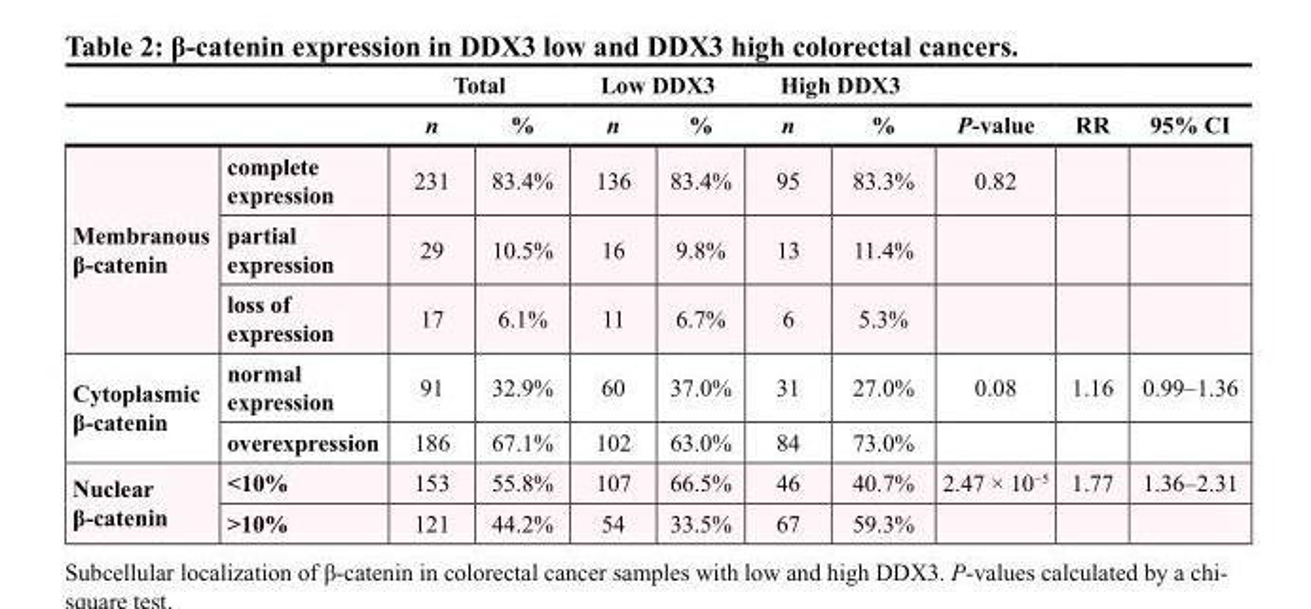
<table><thead><tr><td rowspan="2"></td><td rowspan="2"></td><td colspan="2">Total</td><td colspan="2">Low DDX3</td><td colspan="2">High DDX3</td><td rowspan="2">P-value</td><td rowspan="2">RR</td><td rowspan="2">95% CI</td></tr><tr><td>n</td><td>%</td><td>n</td><td>%</td><td>n</td><td>%</td></tr></thead><tbody><tr><td rowspan="3">Membranous β-catenin</td><td>complete expression</td><td>231</td><td>83.4%</td><td>136</td><td>83.4%</td><td>95</td><td>83.3%</td><td>0.82</td><td></td><td></td></tr><tr><td>partial expression</td><td>29</td><td>10.5%</td><td>16</td><td>9.8%</td><td>13</td><td>11.4%</td><td></td><td></td><td></td></tr><tr><td>loss of expression</td><td>17</td><td>6.1%</td><td>11</td><td>6.7%</td><td>6</td><td>5.3%</td><td></td><td></td><td></td></tr><tr><td rowspan="2">Cytoplasmic β-catenin</td><td>normal expression</td><td>91</td><td>32.9%</td><td>60</td><td>37.0%</td><td>31</td><td>27.0%</td><td>0.08</td><td>1.16</td><td>0.99–1.36</td></tr><tr><td>overexpression</td><td>186</td><td>67.1%</td><td>102</td><td>63.0%</td><td>84</td><td>73.0%</td><td></td><td></td><td></td></tr><tr><td rowspan="2">Nuclear β-catenin</td><td>&lt;10%</td><td>153</td><td>55.8%</td><td>107</td><td>66.5%</td><td>46</td><td>40.7%</td><td>2.47 × 10<sup>−5</sup></td><td>1.77</td><td>1.36–2.31</td></tr><tr><td>&gt;10%</td><td>121</td><td>44.2%</td><td>54</td><td>33.5%</td><td>67</td><td>59.3%</td><td></td><td></td><td></td></tr></tbody></table>